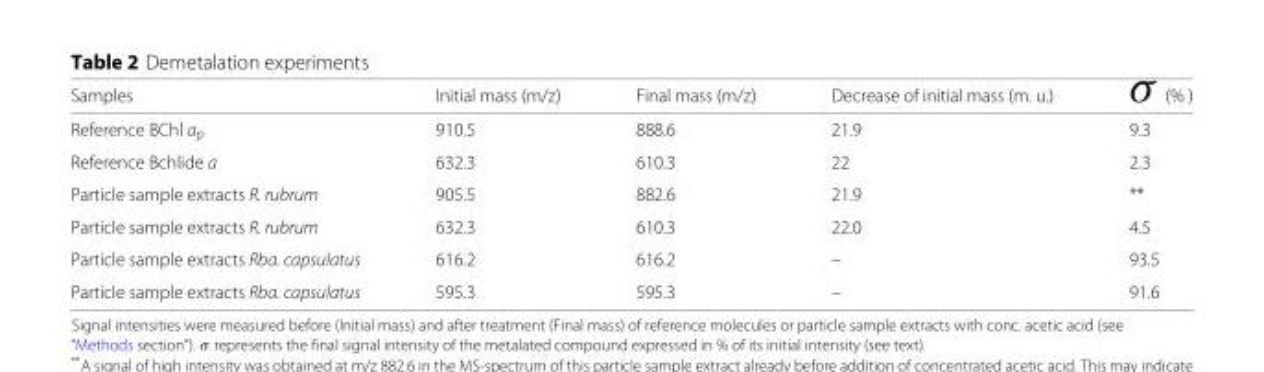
<table><thead><tr><td>Samples</td><td>Initial mass (m/z)</td><td>Final mass (m/z)</td><td>Decrease of initial mass (m. u.)</td><td>σ (% )</td></tr></thead><tbody><tr><td>Reference BChl a<sub>p</sub></td><td>910.5</td><td>888.6</td><td>21.9</td><td>9.3</td></tr><tr><td>Reference Bchlide a</td><td>632.3</td><td>610.3</td><td>22</td><td>2.3</td></tr><tr><td>Particle sample extracts R. rubrum</td><td>905.5</td><td>882.6</td><td>21.9</td><td>**</td></tr><tr><td>Particle sample extracts R. rubrum</td><td>632.3</td><td>610.3</td><td>22.0</td><td>4.5</td></tr><tr><td>Particle sample extracts Rba. capsulatus</td><td>616.2</td><td>616.2</td><td>–</td><td>93.5</td></tr><tr><td>Particle sample extracts Rba. capsulatus</td><td>595.3</td><td>595.3</td><td>–</td><td>91.6</td></tr></tbody></table>